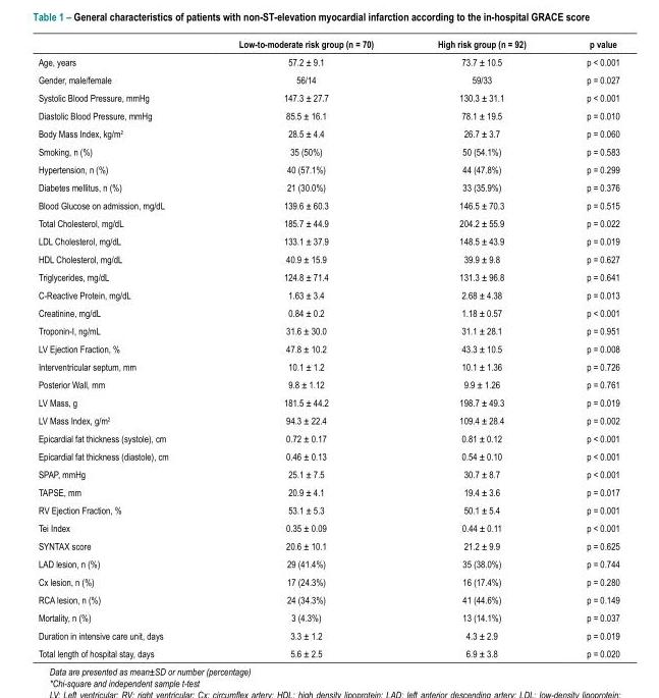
<table><thead><tr><td></td><td>Low-to-moderate risk group (n = 70)</td><td>High risk group (n = 92)</td><td>p value</td></tr></thead><tbody><tr><td>Age, years</td><td>57.2 ± 9.1</td><td>73.7 ± 10.5</td><td>p &lt; 0.001</td></tr><tr><td>Gender, male/female</td><td>56/14</td><td>59/33</td><td>p = 0.027</td></tr><tr><td>Systolic Blood Pressure, mmHg</td><td>147.3 ± 27.7</td><td>130.3 ± 31.1</td><td>p &lt; 0.001</td></tr><tr><td>Diastolic Blood Pressure, mmHg</td><td>85.5 ± 16.1</td><td>78.1 ± 19.5</td><td>p = 0.010</td></tr><tr><td>Body Mass Index, kg/m<sup>2</sup></td><td>28.5 ± 4.4</td><td>26.7 ± 3.7</td><td>p = 0.060</td></tr><tr><td>Smoking, n (%)</td><td>35 (50%)</td><td>50 (54.1%)</td><td>p = 0.583</td></tr><tr><td>Hypertension, n (%)</td><td>40 (57.1%)</td><td>44 (47.8%)</td><td>p = 0.299</td></tr><tr><td>Diabetes mellitus, n (%)</td><td>21 (30.0%)</td><td>33 (35.9%)</td><td>p = 0.376</td></tr><tr><td>Blood Glucose on admission, mg/dL</td><td>139.6 ± 60.3</td><td>146.5 ± 70.3</td><td>p = 0.515</td></tr><tr><td>Total Cholesterol, mg/dL</td><td>185.7 ± 44.9</td><td>204.2 ± 55.9</td><td>p = 0.022</td></tr><tr><td>LDL Cholesterol, mg/dL</td><td>133.1 ± 37.9</td><td>148.5 ± 43.9</td><td>p = 0.019</td></tr><tr><td>HDL Cholesterol, mg/dL</td><td>40.9 ± 15.9</td><td>39.9 ± 9.8</td><td>p = 0.627</td></tr><tr><td>Triglycerides, mg/dL</td><td>124.8 ± 71.4</td><td>131.3 ± 96.8</td><td>p = 0.641</td></tr><tr><td>C-Reactive Protein, mg/dL</td><td>1.63 ± 3.4</td><td>2.68 ± 4.38</td><td>p = 0.013</td></tr><tr><td>Creatinine, mg/dL</td><td>0.84 ± 0.2</td><td>1.18 ± 0.57</td><td>p &lt; 0.001</td></tr><tr><td>Troponin-I, ng/mL</td><td>31.6 ± 30.0</td><td>31.1 ± 28.1</td><td>p = 0.951</td></tr><tr><td>LV Ejection Fraction, %</td><td>47.8 ± 10.2</td><td>43.3 ± 10.5</td><td>p = 0.008</td></tr><tr><td>Interventricular septum, mm</td><td>10.1 ± 1.2</td><td>10.1 ± 1.36</td><td>p = 0.726</td></tr><tr><td>Posterior Wall, mm</td><td>9.8 ± 1.12</td><td>9.9 ± 1.26</td><td>p = 0.761</td></tr><tr><td>LV Mass, g</td><td>181.5 ± 44.2</td><td>198.7 ± 49.3</td><td>p = 0.019</td></tr><tr><td>LV Mass Index, g/m<sup>2</sup></td><td>94.3 ± 22.4</td><td>109.4 ± 28.4</td><td>p = 0.002</td></tr><tr><td>Epicardial fat thickness (systole), cm</td><td>0.72 ± 0.17</td><td>0.81 ± 0.12</td><td>p &lt; 0.001</td></tr><tr><td>Epicardial fat thickness (diastole), cm</td><td>0.46 ± 0.13</td><td>0.54 ± 0.10</td><td>p &lt; 0.001</td></tr><tr><td>SPAP, mmHg</td><td>25.1 ± 7.5</td><td>30.7 ± 8.7</td><td>p &lt; 0.001</td></tr><tr><td>TAPSE, mm</td><td>20.9 ± 4.1</td><td>19.4 ± 3.6</td><td>p = 0.017</td></tr><tr><td>RV Ejection Fraction, %</td><td>53.1 ± 5.3</td><td>50.1 ± 5.4</td><td>p = 0.001</td></tr><tr><td>Tei Index</td><td>0.35 ± 0.09</td><td>0.44 ± 0.11</td><td>p &lt; 0.001</td></tr><tr><td>SYNTAX score</td><td>20.6 ± 10.1</td><td>21.2 ± 9.9</td><td>p = 0.625</td></tr><tr><td>LAD lesion, n (%)</td><td>29 (41.4%)</td><td>35 (38.0%)</td><td>p = 0.744</td></tr><tr><td>Cx lesion, n (%)</td><td>17 (24.3%)</td><td>16 (17.4%)</td><td>p = 0.280</td></tr><tr><td>RCA lesion, n (%)</td><td>24 (34.3%)</td><td>41 (44.6%)</td><td>p = 0.149</td></tr><tr><td>Mortality, n (%)</td><td>3 (4.3%)</td><td>13 (14.1%)</td><td>p = 0.037</td></tr><tr><td>Duration in intensive care unit, days</td><td>3.3 ± 1.2</td><td>4.3 ± 2.9</td><td>p = 0.019</td></tr><tr><td>Total length of hospital stay, days</td><td>5.6 ± 2.5</td><td>6.9 ± 3.8</td><td>p = 0.020</td></tr></tbody></table>